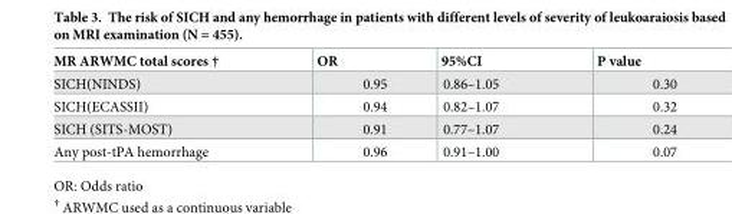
<table><thead><tr><td>MR ARWMC total scores †</td><td>OR</td><td>95%CI</td><td>P value</td></tr></thead><tbody><tr><td>SICH(NINDS)</td><td>0.95</td><td>0.86–1.05</td><td>0.30</td></tr><tr><td>SICH(ECASSII)</td><td>0.94</td><td>0.82–1.07</td><td>0.32</td></tr><tr><td>SICH (SITS-MOST)</td><td>0.91</td><td>0.77–1.07</td><td>0.24</td></tr><tr><td>Any post-tPA hemorrhage</td><td>0.96</td><td>0.91–1.00</td><td>0.07</td></tr></tbody></table>